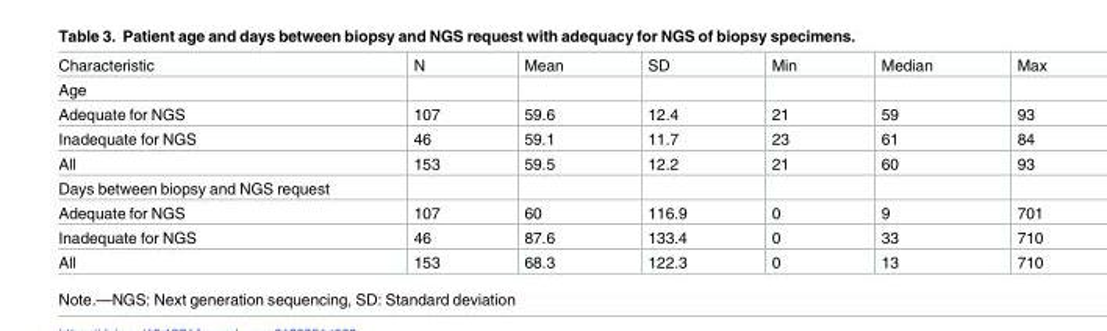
<table><tbody><tr><td>Characteristic</td><td>N</td><td>Mean</td><td>SD</td><td>Min</td><td>Median</td><td>Max</td></tr><tr><td colspan="7">Age</td></tr><tr><td>Adequate for NGS</td><td>107</td><td>59.6</td><td>12.4</td><td>21</td><td>59</td><td>93</td></tr><tr><td>Inadequate for NGS</td><td>46</td><td>59.1</td><td>11.7</td><td>23</td><td>61</td><td>84</td></tr><tr><td>All</td><td>153</td><td>59.5</td><td>12.2</td><td>21</td><td>60</td><td>93</td></tr><tr><td colspan="7">Days between biopsy and NGS request</td></tr><tr><td>Adequate for NGS</td><td>107</td><td>60</td><td>116.9</td><td>0</td><td>9</td><td>701</td></tr><tr><td>Inadequate for NGS</td><td>46</td><td>87.6</td><td>133.4</td><td>0</td><td>33</td><td>710</td></tr><tr><td>All</td><td>153</td><td>68.3</td><td>122.3</td><td>0</td><td>13</td><td>710</td></tr></tbody></table>